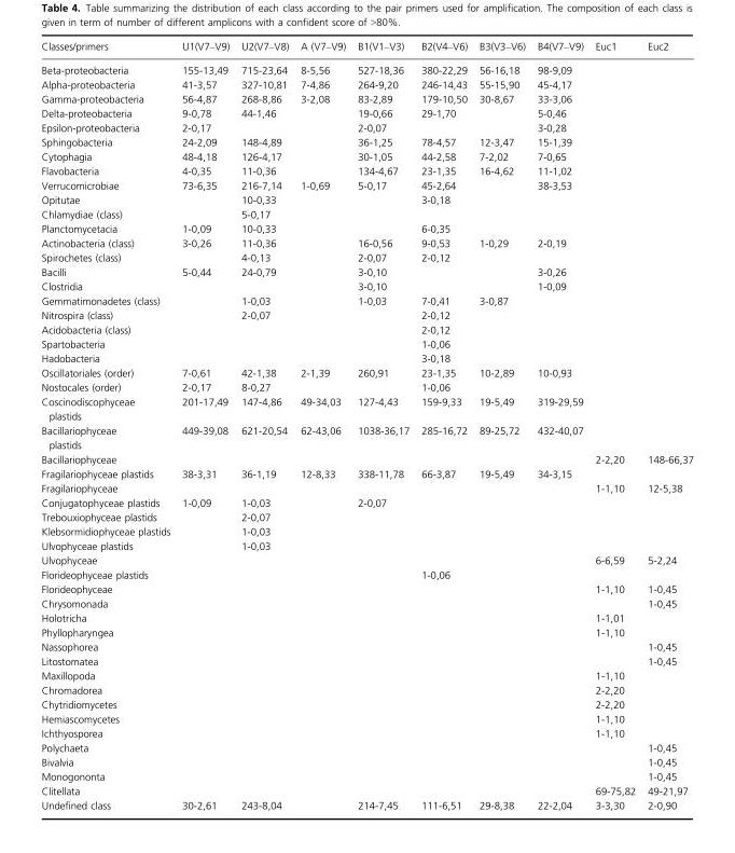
<table><thead><tr><td>Classes/primers</td><td>U1(V7–V9)</td><td>U2(V7–V8)</td><td>A (V7–V9)</td><td>B1(V1–V3)</td><td>B2(V4–V6)</td><td>B3(V3–V6)</td><td>B4(V7–V9)</td><td>Euc1</td><td>Euc2</td></tr></thead><tbody><tr><td>Beta-proteobacteria</td><td>155-13,49</td><td>715-23,64</td><td>8-5,56</td><td>527-18,36</td><td>380-22,29</td><td>56-16,18</td><td>98-9,09</td><td></td><td></td></tr><tr><td>Alpha-proteobacteria</td><td>41-3,57</td><td>327-10,81</td><td>7-4,86</td><td>264-9,20</td><td>246-14,43</td><td>55-15,90</td><td>45-4,17</td><td></td><td></td></tr><tr><td>Gamma-proteobacteria</td><td>56-4,87</td><td>268-8,86</td><td>3-2,08</td><td>83-2,89</td><td>179-10,50</td><td>30-8,67</td><td>33-3,06</td><td></td><td></td></tr><tr><td>Delta-proteobacteria</td><td>9-0,78</td><td>44-1,46</td><td></td><td>19-0,66</td><td>29-1,70</td><td></td><td>5-0,46</td><td></td><td></td></tr><tr><td>Epsilon-proteobacteria</td><td>2-0,17</td><td></td><td></td><td>2-0,07</td><td></td><td></td><td>3-0,28</td><td></td><td></td></tr><tr><td>Sphingobacteria</td><td>24-2,09</td><td>148-4,89</td><td></td><td>36-1,25</td><td>78-4,57</td><td>12-3,47</td><td>15-1,39</td><td></td><td></td></tr><tr><td>Cytophagia</td><td>48-4,18</td><td>126-4,17</td><td></td><td>30-1,05</td><td>44-2,58</td><td>7-2,02</td><td>7-0,65</td><td></td><td></td></tr><tr><td>Flavobacteria</td><td>4-0,35</td><td>11-0,36</td><td></td><td>134-4,67</td><td>23-1,35</td><td>16-4,62</td><td>11-1,02</td><td></td><td></td></tr><tr><td>Verrucomicrobiae</td><td>73-6,35</td><td>216-7,14</td><td>1-0,69</td><td>5-0,17</td><td>45-2,64</td><td></td><td>38-3,53</td><td></td><td></td></tr><tr><td>Opitutae</td><td></td><td>10-0,33</td><td></td><td></td><td>3-0,18</td><td></td><td></td><td></td><td></td></tr><tr><td>Chlamydiae (class)</td><td></td><td>5-0,17</td><td></td><td></td><td></td><td></td><td></td><td></td><td></td></tr><tr><td>Planctomycetacia</td><td>1-0,09</td><td>10-0,33</td><td></td><td></td><td>6-0,35</td><td></td><td></td><td></td><td></td></tr><tr><td>Actinobacteria (class)</td><td>3-0,26</td><td>11-0,36</td><td></td><td>16-0,56</td><td>9-0,53</td><td>1-0,29</td><td>2-0,19</td><td></td><td></td></tr><tr><td>Spirochetes (class)</td><td></td><td>4-0,13</td><td></td><td>2-0,07</td><td>2-0,12</td><td></td><td></td><td></td><td></td></tr><tr><td>Bacilli</td><td>5-0,44</td><td>24-0,79</td><td></td><td>3-0,10</td><td></td><td></td><td>3-0,26</td><td></td><td></td></tr><tr><td>Clostridia</td><td></td><td></td><td></td><td>3-0,10</td><td></td><td></td><td>1-0,09</td><td></td><td></td></tr><tr><td>Gemmatimonadetes (class)</td><td></td><td>1-0,03</td><td></td><td>1-0,03</td><td>7-0,41</td><td>3-0,87</td><td></td><td></td><td></td></tr><tr><td>Nitrospira (class)</td><td></td><td>2-0,07</td><td></td><td></td><td>2-0,12</td><td></td><td></td><td></td><td></td></tr><tr><td>Acidobacteria (class)</td><td></td><td></td><td></td><td></td><td>2-0,12</td><td></td><td></td><td></td><td></td></tr><tr><td>Spartobacteria</td><td></td><td></td><td></td><td></td><td>1-0,06</td><td></td><td></td><td></td><td></td></tr><tr><td>Hadobacteria</td><td></td><td></td><td></td><td></td><td>3-0,18</td><td></td><td></td><td></td><td></td></tr><tr><td>Oscillatoriales (order)</td><td>7-0,61</td><td>42-1,38</td><td>2-1,39</td><td>260,91</td><td>23-1,35</td><td>10-2,89</td><td>10-0,93</td><td></td><td></td></tr><tr><td>Nostocales (order)</td><td>2-0,17</td><td>8-0,27</td><td></td><td></td><td>1-0,06</td><td></td><td></td><td></td><td></td></tr><tr><td>Coscinodiscophyceae plastids</td><td>201-17,49</td><td>147-4,86</td><td>49-34,03</td><td>127-4,43</td><td>159-9,33</td><td>19-5,49</td><td>319-29,59</td><td></td><td></td></tr><tr><td>Bacillariophyceae plastids</td><td>449-39,08</td><td>621-20,54</td><td>62-43,06</td><td>1038-36,17</td><td>285-16,72</td><td>89-25,72</td><td>432-40,07</td><td></td><td></td></tr><tr><td>Bacillariophyceae</td><td></td><td></td><td></td><td></td><td></td><td></td><td></td><td>2-2,20</td><td>148-66,37</td></tr><tr><td>Fragilariophyceae plastids</td><td>38-3,31</td><td>36-1,19</td><td>12-8,33</td><td>338-11,78</td><td>66-3,87</td><td>19-5,49</td><td>34-3,15</td><td></td><td></td></tr><tr><td>Fragilariophyceae</td><td></td><td></td><td></td><td></td><td></td><td></td><td></td><td>1-1,10</td><td>12-5,38</td></tr><tr><td>Conjugatophyceae plastids</td><td>1-0,09</td><td>1-0,03</td><td></td><td>2-0,07</td><td></td><td></td><td></td><td></td><td></td></tr><tr><td>Trebouxiophyceae plastids</td><td></td><td>2-0,07</td><td></td><td></td><td></td><td></td><td></td><td></td><td></td></tr><tr><td>Klebsormidiophyceae plastids</td><td></td><td>1-0,03</td><td></td><td></td><td></td><td></td><td></td><td></td><td></td></tr><tr><td>Ulvophyceae plastids</td><td></td><td>1-0,03</td><td></td><td></td><td></td><td></td><td></td><td></td><td></td></tr><tr><td>Ulvophyceae</td><td></td><td></td><td></td><td></td><td></td><td></td><td></td><td>6-6,59</td><td>5-2,24</td></tr><tr><td>Florideophyceae plastids</td><td></td><td></td><td></td><td></td><td>1-0,06</td><td></td><td></td><td></td><td></td></tr><tr><td>Florideophyceae</td><td></td><td></td><td></td><td></td><td></td><td></td><td></td><td>1-1,10</td><td>1-0,45</td></tr><tr><td>Chrysomonada</td><td></td><td></td><td></td><td></td><td></td><td></td><td></td><td></td><td>1-0,45</td></tr><tr><td>Holotricha</td><td></td><td></td><td></td><td></td><td></td><td></td><td></td><td>1-1,01</td><td></td></tr><tr><td>Phyllopharyngea</td><td></td><td></td><td></td><td></td><td></td><td></td><td></td><td>1-1,10</td><td></td></tr><tr><td>Nassophorea</td><td></td><td></td><td></td><td></td><td></td><td></td><td></td><td></td><td>1-0,45</td></tr><tr><td>Litostomatea</td><td></td><td></td><td></td><td></td><td></td><td></td><td></td><td></td><td>1-0,45</td></tr><tr><td>Maxillopoda</td><td></td><td></td><td></td><td></td><td></td><td></td><td></td><td>1-1,10</td><td></td></tr><tr><td>Chromadorea</td><td></td><td></td><td></td><td></td><td></td><td></td><td></td><td>2-2,20</td><td></td></tr><tr><td>Chytridiomycetes</td><td></td><td></td><td></td><td></td><td></td><td></td><td></td><td>2-2,20</td><td></td></tr><tr><td>Hemiascomycetes</td><td></td><td></td><td></td><td></td><td></td><td></td><td></td><td>1-1,10</td><td></td></tr><tr><td>Ichthyosporea</td><td></td><td></td><td></td><td></td><td></td><td></td><td></td><td>1-1,10</td><td></td></tr><tr><td>Polychaeta</td><td></td><td></td><td></td><td></td><td></td><td></td><td></td><td></td><td>1-0,45</td></tr><tr><td>Bivalvia</td><td></td><td></td><td></td><td></td><td></td><td></td><td></td><td></td><td>1-0,45</td></tr><tr><td>Monogononta</td><td></td><td></td><td></td><td></td><td></td><td></td><td></td><td></td><td>1-0,45</td></tr><tr><td>Clitellata</td><td></td><td></td><td></td><td></td><td></td><td></td><td></td><td>69-75,82</td><td>49-21,97</td></tr><tr><td>Undefined class</td><td>30-2,61</td><td>243-8,04</td><td></td><td>214-7,45</td><td>111-6,51</td><td>29-8,38</td><td>22-2,04</td><td>3-3,30</td><td>2-0,90</td></tr></tbody></table>